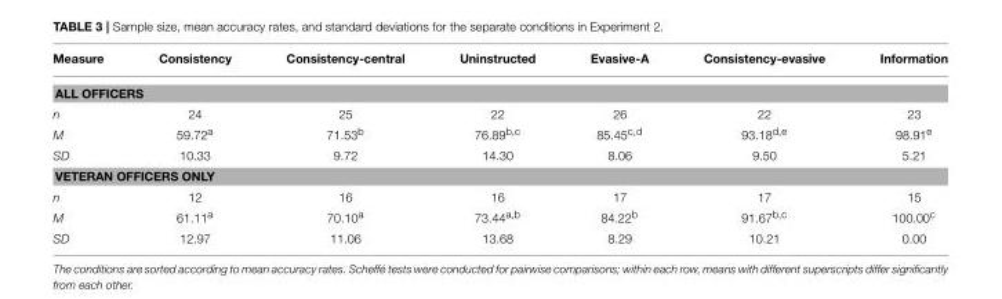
<table><thead><tr><td>Measure</td><td>Consistency</td><td>Consistency-central</td><td>Uninstructed</td><td>Evasive-A</td><td>Consistency-evasive</td><td>Information</td></tr></thead><tbody><tr><td colspan="7">ALL OFFICERS</td></tr><tr><td>n</td><td>24</td><td>25</td><td>22</td><td>26</td><td>22</td><td>23</td></tr><tr><td>M</td><td>59.72<sup>a</sup></td><td>71.53<sup>b</sup></td><td>76.89<sup>b,c</sup></td><td>85.45<sup>c,d</sup></td><td>93.18<sup>d,e</sup></td><td>98.91<sup>e</sup></td></tr><tr><td>SD</td><td>10.33</td><td>9.72</td><td>14.30</td><td>8.06</td><td>9.50</td><td>5.21</td></tr><tr><td colspan="7">VETERAN OFFICERS ONLY</td></tr><tr><td>n</td><td>12</td><td>16</td><td>16</td><td>17</td><td>17</td><td>15</td></tr><tr><td>M</td><td>61.11<sup>a</sup></td><td>70.10<sup>a</sup></td><td>73.44<sup>a,b</sup></td><td>84.22<sup>b</sup></td><td>91.67<sup>b,c</sup></td><td>100.00<sup>c</sup></td></tr><tr><td>SD</td><td>12.97</td><td>11.06</td><td>13.68</td><td>8.29</td><td>10.21</td><td>0.00</td></tr></tbody></table>